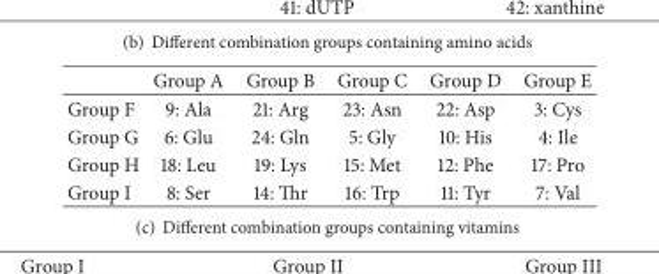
<table><thead><tr><td></td><td>Group A</td><td>Group B</td><td>Group C</td><td>Group D</td><td>Group E</td></tr></thead><tbody><tr><td>Group F</td><td>9: Ala</td><td>21: Arg</td><td>23: Asn</td><td>22: Asp</td><td>3: Cys</td></tr><tr><td>Group G</td><td>6: Glu</td><td>24: Gln</td><td>5: Gly</td><td>10: His</td><td>4: Ile</td></tr><tr><td>Group H</td><td>18: Leu</td><td>19: Lys</td><td>15: Met</td><td>12: Phe</td><td>17: Pro</td></tr><tr><td>Group I</td><td>8: Ser</td><td>14: Thr</td><td>16: Trp</td><td>11: Tyr</td><td>7: Val</td></tr></tbody></table>